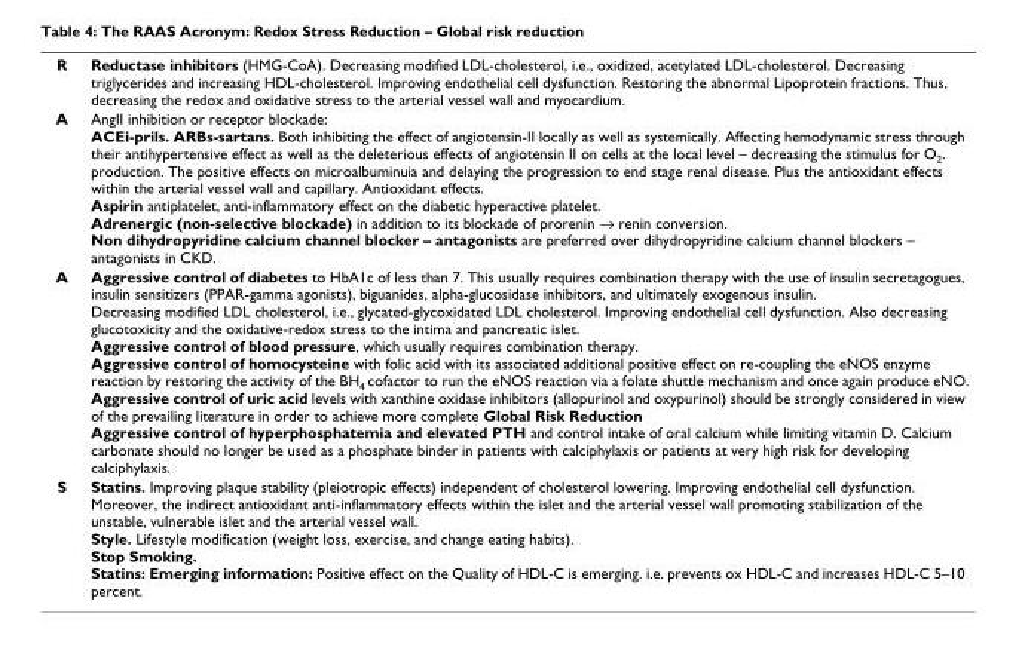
<table><tbody><tr><td>R</td><td>Reductase inhibitors (HMG-CoA). Decreasing modified LDL-cholesterol, i.e., oxidized, acetylated LDL-cholesterol. Decreasing triglycerides and increasing HDL-cholesterol. Improving endothelial cell dysfunction. Restoring the abnormal Lipoprotein fractions. Thus, decreasing the redox and oxidative stress to the arterial vessel wall and myocardium.</td></tr><tr><td>A</td><td>AngII inhibition or receptor blockade: ACEi-prils. ARBs-sartans. Both inhibiting the effect of angiotensin-II locally as well as systemically. Affecting hemodynamic stress through their antihypertensive effect as well as the deleterious effects of angiotensin II on cells at the local level – decreasing the stimulus for O2. production. The positive effects on microalbuminuia and delaying the progression to end stage renal disease. Plus the antioxidant effects within the arterial vessel wall and capillary. Antioxidant effects. Aspirin antiplatelet, anti-inflammatory effect on the diabetic hyperactive platelet. Adrenergic (non-selective blockade) in addition to its blockade of prorenin → renin conversion. Non dihydropyridine calcium channel blocker – antagonists are preferred over dihydropyridine calcium channel blockers – antagonists in CKD.</td></tr><tr><td>A</td><td>Aggressive control of diabetes to HbA1c of less than 7. This usually requires combination therapy with the use of insulin secretagogues, insulin sensitizers (PPAR-gamma agonists), biguanides, alpha-glucosidase inhibitors, and ultimately exogenous insulin. Decreasing modified LDL cholesterol, i.e., glycated-glycoxidated LDL cholesterol. Improving endothelial cell dysfunction. Also decreasing glucotoxicity and the oxidative-redox stress to the intima and pancreatic islet. Aggressive control of blood pressure, which usually requires combination therapy. Aggressive control of homocysteine with folic acid with its associated additional positive effect on re-coupling the eNOS enzyme reaction by restoring the activity of the BH4 cofactor to run the eNOS reaction via a folate shuttle mechanism and once again produce eNO. Aggressive control of uric acid levels with xanthine oxidase inhibitors (allopurinol and oxypurinol) should be strongly considered in view of the prevailing literature in order to achieve more complete Global Risk Reduction Aggressive control of hyperphosphatemia and elevated PTH and control intake of oral calcium while limiting vitamin D. Calcium carbonate should no longer be used as a phosphate binder in patients with calciphylaxis or patients at very high risk for developing calciphylaxis.</td></tr><tr><td>S</td><td>Statins. Improving plaque stability (pleiotropic effects) independent of cholesterol lowering. Improving endothelial cell dysfunction. Moreover, the indirect antioxidant anti-inflammatory effects within the islet and the arterial vessel wall promoting stabilization of the unstable, vulnerable islet and the arterial vessel wall. Style. Lifestyle modification (weight loss, exercise, and change eating habits). Stop Smoking. Statins: Emerging information: Positive effect on the Quality of HDL-C is emerging. i.e. prevents ox HDL-C and increases HDL-C 5–10 percent.</td></tr></tbody></table>